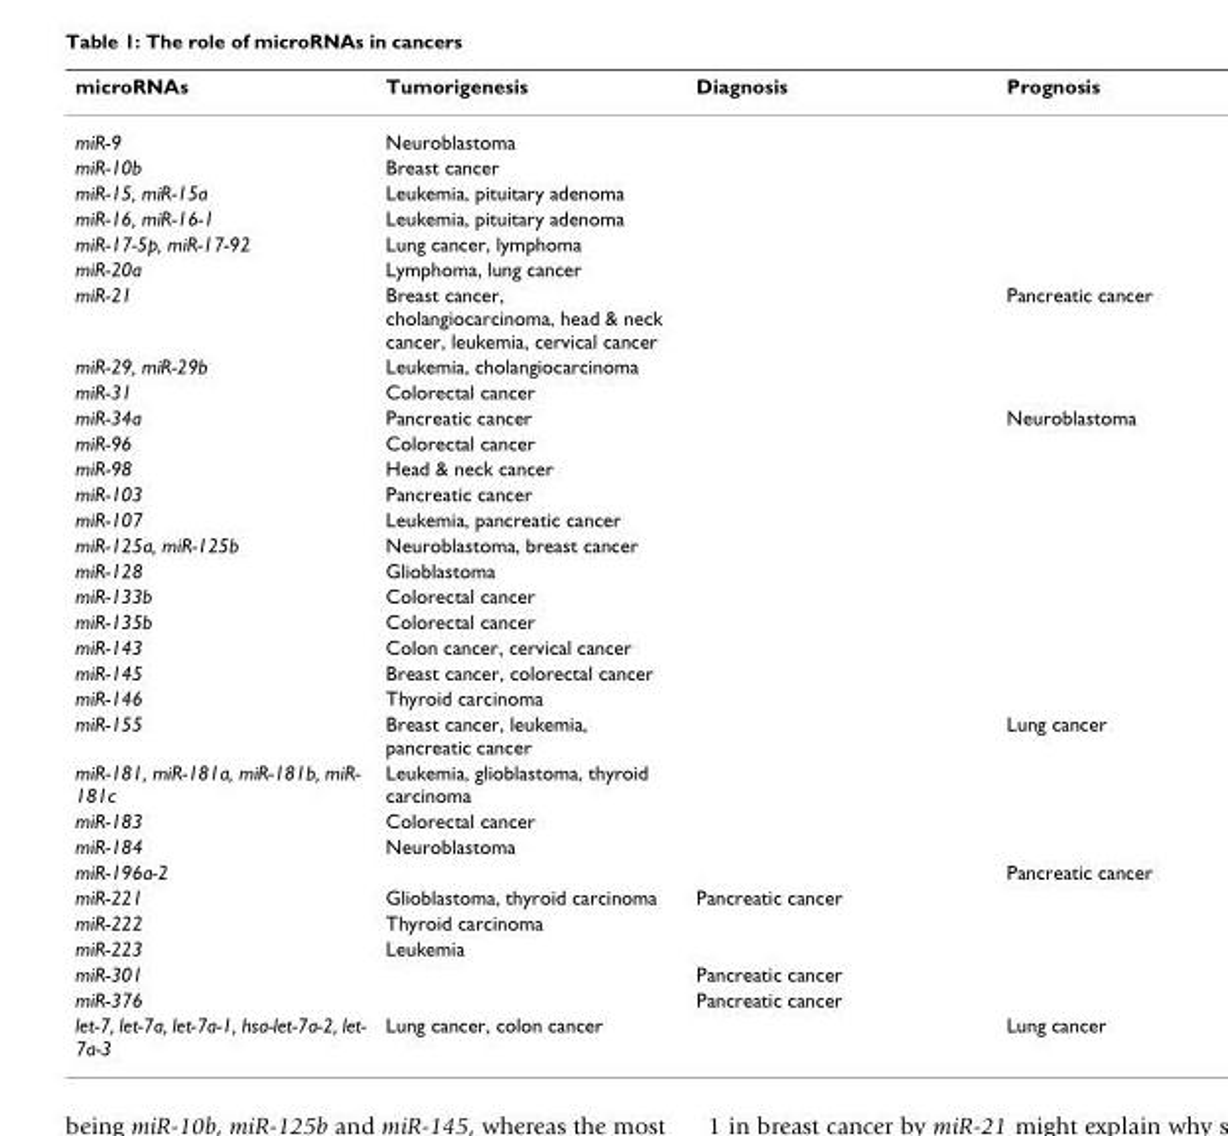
<table><thead><tr><td>microRNAs</td><td>Tumorigenesis</td><td>Diagnosis</td><td>Prognosis</td></tr></thead><tbody><tr><td>miR-9</td><td>Neuroblastoma</td><td></td><td></td></tr><tr><td>miR-10b</td><td>Breast cancer</td><td></td><td></td></tr><tr><td>miR-15, miR-15a</td><td>Leukemia, pituitary adenoma</td><td></td><td></td></tr><tr><td>miR-16, miR-16-1</td><td>Leukemia, pituitary adenoma</td><td></td><td></td></tr><tr><td>miR-17-5p, miR-17-92</td><td>Lung cancer, lymphoma</td><td></td><td></td></tr><tr><td>miR-20a</td><td>Lymphoma, lung cancer</td><td></td><td></td></tr><tr><td>miR-21</td><td>Breast cancer, cholangiocarcinoma, head &amp; neck cancer, leukemia, cervical cancer</td><td></td><td>Pancreatic cancer</td></tr><tr><td>miR-29, miR-29b</td><td>Leukemia, cholangiocarcinoma</td><td></td><td></td></tr><tr><td>miR-31</td><td>Colorectal cancer</td><td></td><td></td></tr><tr><td>miR-34a</td><td>Pancreatic cancer</td><td></td><td>Neuroblastoma</td></tr><tr><td>miR-96</td><td>Colorectal cancer</td><td></td><td></td></tr><tr><td>miR-98</td><td>Head &amp; neck cancer</td><td></td><td></td></tr><tr><td>miR-103</td><td>Pancreatic cancer</td><td></td><td></td></tr><tr><td>miR-107</td><td>Leukemia, pancreatic cancer</td><td></td><td></td></tr><tr><td>miR-125a, miR-125b</td><td>Neuroblastoma, breast cancer</td><td></td><td></td></tr><tr><td>miR-128</td><td>Glioblastoma</td><td></td><td></td></tr><tr><td>miR-133b</td><td>Colorectal cancer</td><td></td><td></td></tr><tr><td>miR-135b</td><td>Colorectal cancer</td><td></td><td></td></tr><tr><td>miR-143</td><td>Colon cancer, cervical cancer</td><td></td><td></td></tr><tr><td>miR-145</td><td>Breast cancer, colorectal cancer</td><td></td><td></td></tr><tr><td>miR-146</td><td>Thyroid carcinoma</td><td></td><td></td></tr><tr><td>miR-155</td><td>Breast cancer, leukemia, pancreatic cancer</td><td></td><td>Lung cancer</td></tr><tr><td>miR-181, miR-181a, miR-181b, miR- 181c</td><td>Leukemia, glioblastoma, thyroid carcinoma</td><td></td><td></td></tr><tr><td>miR-183</td><td>Colorectal cancer</td><td></td><td></td></tr><tr><td>miR-184</td><td>Neuroblastoma</td><td></td><td></td></tr><tr><td>miR-196a-2</td><td></td><td></td><td>Pancreatic cancer</td></tr><tr><td>miR-221</td><td>Glioblastoma, thyroid carcinoma</td><td>Pancreatic cancer</td><td></td></tr><tr><td>miR-222</td><td>Thyroid carcinoma</td><td></td><td></td></tr><tr><td>miR-223</td><td>Leukemia</td><td></td><td></td></tr><tr><td>miR-301</td><td></td><td>Pancreatic cancer</td><td></td></tr><tr><td>miR-376</td><td></td><td>Pancreatic cancer</td><td></td></tr><tr><td>let-7, let-7a, let-7a-1, hsa-let-7a-2, let- 7a-3</td><td>Lung cancer, colon cancer</td><td></td><td>Lung cancer</td></tr></tbody></table>